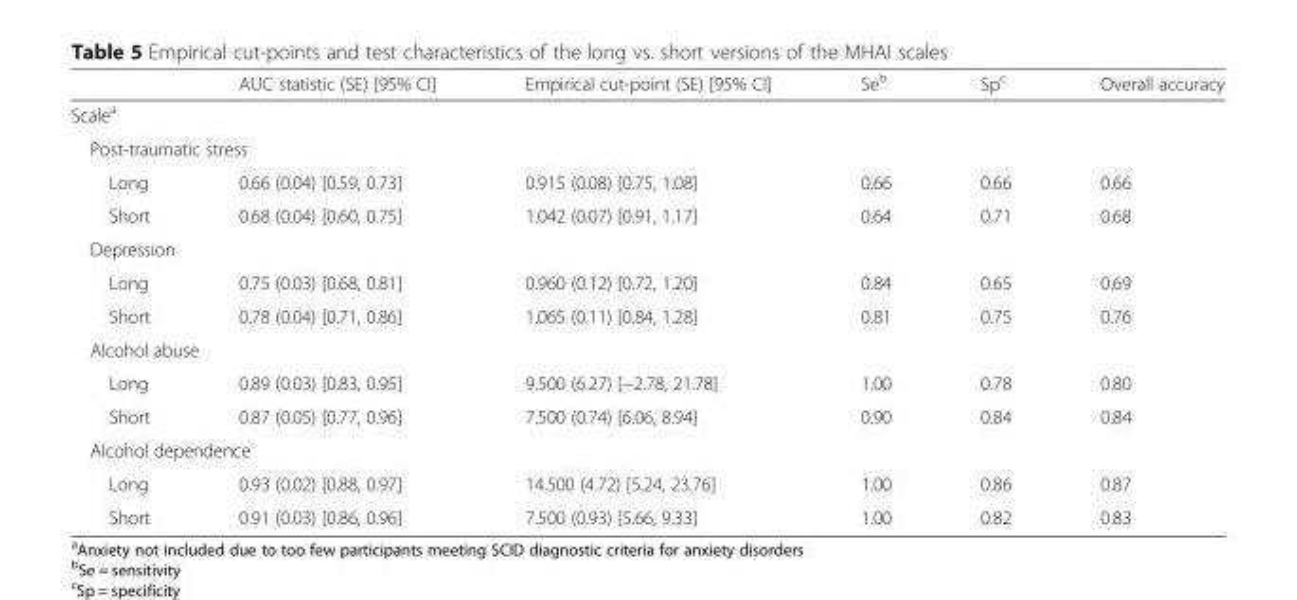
<table><thead><tr><td></td><td>AUC statistic (SE) [95% CI]</td><td>Empirical cut-point (SE) [95% CI]</td><td>Se<sup>b</sup></td><td>Sp<sup>c</sup></td><td>Overall accuracy</td></tr></thead><tbody><tr><td colspan="6">Scale<sup>a</sup></td></tr><tr><td colspan="6">Post-traumatic stress</td></tr><tr><td>Long</td><td>0.66 (0.04) [0.59, 0.73]</td><td>0.915 (0.08) [0.75, 1.08]</td><td>0.66</td><td>0.66</td><td>0.66</td></tr><tr><td>Short</td><td>0.68 (0.04) [0.60, 0.75]</td><td>1.042 (0.07) [0.91, 1.17]</td><td>0.64</td><td>0.71</td><td>0.68</td></tr><tr><td colspan="6">Depression</td></tr><tr><td>Long</td><td>0.75 (0.03) [0.68, 0.81]</td><td>0.960 (0.12) [0.72, 1.20]</td><td>0.84</td><td>0.65</td><td>0.69</td></tr><tr><td>Short</td><td>0.78 (0.04) [0.71, 0.86]</td><td>1.065 (0.11) [0.84, 1.28]</td><td>0.81</td><td>0.75</td><td>0.76</td></tr><tr><td colspan="6">Alcohol abuse</td></tr><tr><td>Long</td><td>0.89 (0.03) [0.83, 0.95]</td><td>9.500 (6.27) [−2.78, 21.78]</td><td>1.00</td><td>0.78</td><td>0.80</td></tr><tr><td>Short</td><td>0.87 (0.05) [0.77, 0.96]</td><td>7.500 (0.74) [6.06, 8.94]</td><td>0.90</td><td>0.84</td><td>0.84</td></tr><tr><td colspan="6">Alcohol dependence</td></tr><tr><td>Long</td><td>0.93 (0.02) [0.88, 0.97]</td><td>14.500 (4.72) [5.24, 23.76]</td><td>1.00</td><td>0.86</td><td>0.87</td></tr><tr><td>Short</td><td>0.91 (0.03) [0.86, 0.96]</td><td>7.500 (0.93) [5.66, 9.33]</td><td>1.00</td><td>0.82</td><td>0.83</td></tr></tbody></table>